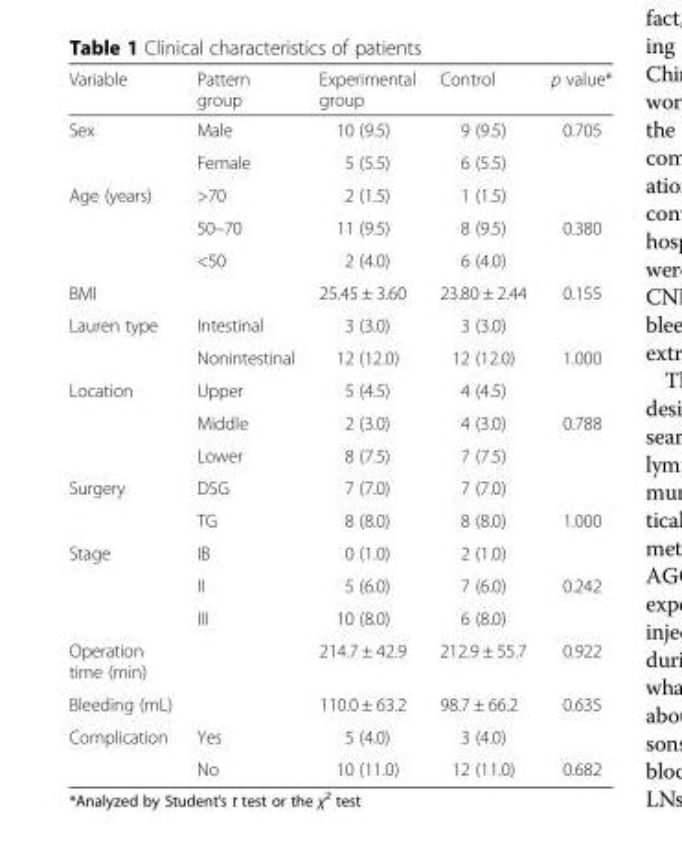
<table><thead><tr><td>Variable</td><td>Pattern group</td><td>Experimental group</td><td>Control</td><td>p value*</td></tr></thead><tbody><tr><td rowspan="2">Sex</td><td>Male</td><td>10 (9.5)</td><td>9 (9.5)</td><td>0.705</td></tr><tr><td>Female</td><td>5 (5.5)</td><td>6 (5.5)</td><td></td></tr><tr><td rowspan="3">Age (years)</td><td>&gt;70</td><td>2 (1.5)</td><td>1 (1.5)</td><td></td></tr><tr><td>50–70</td><td>11 (9.5)</td><td>8 (9.5)</td><td>0.380</td></tr><tr><td>&lt;50</td><td>2 (4.0)</td><td>6 (4.0)</td><td></td></tr><tr><td>BMI</td><td></td><td>25.45 ± 3.60</td><td>23.80 ± 2.44</td><td>0.155</td></tr><tr><td rowspan="2">Lauren type</td><td>Intestinal</td><td>3 (3.0)</td><td>3 (3.0)</td><td></td></tr><tr><td>Nonintestinal</td><td>12 (12.0)</td><td>12 (12.0)</td><td>1.000</td></tr><tr><td rowspan="3">Location</td><td>Upper</td><td>5 (4.5)</td><td>4 (4.5)</td><td></td></tr><tr><td>Middle</td><td>2 (3.0)</td><td>4 (3.0)</td><td>0.788</td></tr><tr><td>Lower</td><td>8 (7.5)</td><td>7 (7.5)</td><td></td></tr><tr><td rowspan="2">Surgery</td><td>DSG</td><td>7 (7.0)</td><td>7 (7.0)</td><td></td></tr><tr><td>TG</td><td>8 (8.0)</td><td>8 (8.0)</td><td>1.000</td></tr><tr><td rowspan="3">Stage</td><td>IB</td><td>0 (1.0)</td><td>2 (1.0)</td><td></td></tr><tr><td>II</td><td>5 (6.0)</td><td>7 (6.0)</td><td>0.242</td></tr><tr><td>III</td><td>10 (8.0)</td><td>6 (8.0)</td><td></td></tr><tr><td>Operation time (min)</td><td></td><td>214.7 ± 42.9</td><td>212.9 ± 55.7</td><td>0.922</td></tr><tr><td>Bleeding (mL)</td><td></td><td>110.0 ± 63.2</td><td>98.7 ± 66.2</td><td>0.635</td></tr><tr><td rowspan="2">Complication</td><td>Yes</td><td>5 (4.0)</td><td>3 (4.0)</td><td></td></tr><tr><td>No</td><td>10 (11.0)</td><td>12 (11.0)</td><td>0.682</td></tr></tbody></table>